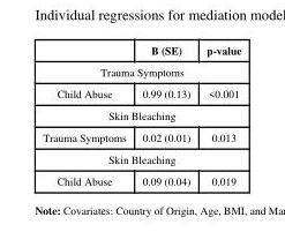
<table><thead><tr><td></td><td>B (SE)</td><td>p-value</td></tr></thead><tbody><tr><td colspan="3">Trauma Symptoms</td></tr><tr><td>Child Abuse</td><td>0.99 (0.13)</td><td>&lt;0.001</td></tr><tr><td colspan="3">Skin Bleaching</td></tr><tr><td>Trauma Symptoms</td><td>0.02 (0.01)</td><td>0.013</td></tr><tr><td colspan="3">Skin Bleaching</td></tr><tr><td>Child Abuse</td><td>0.09 (0.04)</td><td>0.019</td></tr></tbody></table>